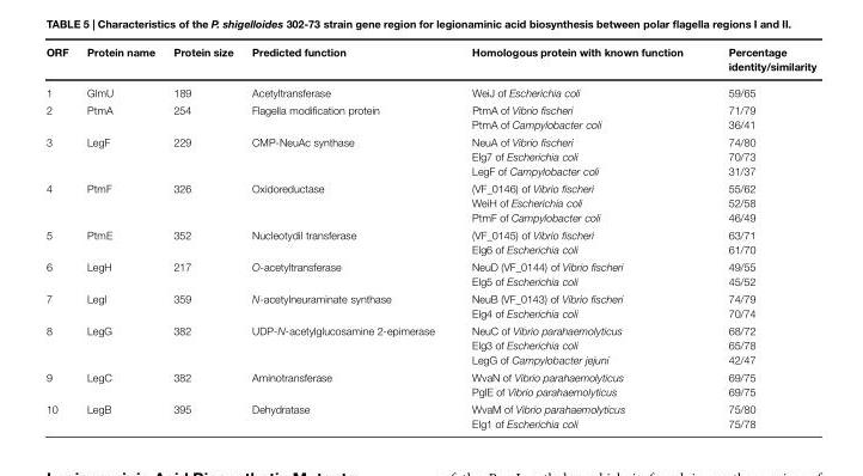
<table><thead><tr><td>ORF</td><td>Protein name</td><td>Protein size</td><td>Predicted function</td><td>Homologous protein with known function</td><td>Percentage identity/similarity</td></tr></thead><tbody><tr><td>1</td><td>GlmU</td><td>189</td><td>Acetyltransferase</td><td>WeiJ of Escherichia coli</td><td>59/65</td></tr><tr><td>2</td><td>PtmA</td><td>254</td><td>Flagella modification protein</td><td>PtmA of Vibrio fischeri PtmA of Campylobacter coli</td><td>71/79 36/41</td></tr><tr><td>3</td><td>LegF</td><td>229</td><td>CMP-NeuAc synthase</td><td>NeuA of Vibrio fischeri Elg7 of Escherichia coli LegF of Campylobacter coli</td><td>74/80 70/73 31/37</td></tr><tr><td>4</td><td>PtmF</td><td>326</td><td>Oxidoreductase</td><td>(VF_0146) of Vibrio fischeri WeiH of Escherichia coli PtmF of Campylobacter coli</td><td>55/62 52/58 46/49</td></tr><tr><td>5</td><td>PtmE</td><td>352</td><td>Nucleotydil transferase</td><td>(VF_0145) of Vibrio fischeri Elg6 of Escherichia coli</td><td>63/71 61/70</td></tr><tr><td>6</td><td>LegH</td><td>217</td><td>O-acetyltransferase</td><td>NeuD (VF_0144) of Vibrio fischeri Elg5 of Escherichia coli</td><td>49/55 45/52</td></tr><tr><td>7</td><td>LegI</td><td>359</td><td>N-acetylneuraminate synthase</td><td>NeuB (VF_0143) of Vibrio fischeri Elg4 of Escherichia coli</td><td>74/79 70/74</td></tr><tr><td>8</td><td>LegG</td><td>382</td><td>UDP-N-acetylglucosamine 2-epimerase</td><td>NeuC of Vibrio parahaemolyticus Elg3 of Escherichia coli LegG of Campylobacter jejuni</td><td>68/72 65/78 42/47</td></tr><tr><td>9</td><td>LegC</td><td>382</td><td>Aminotransferase</td><td>WvaN of Vibrio parahaemolyticus PglE of Vibrio parahaemolyticus</td><td>69/75 69/75</td></tr><tr><td>10</td><td>LegB</td><td>395</td><td>Dehydratase</td><td>WvaM of Vibrio parahaemolyticus Elg1 of Escherichia coli</td><td>75/80 75/78</td></tr></tbody></table>